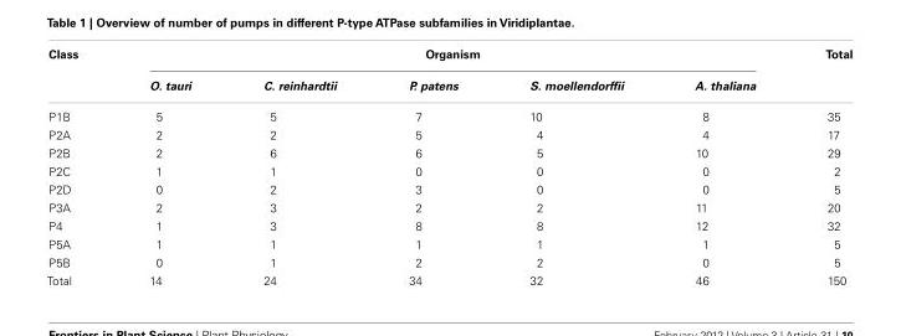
<table><thead><tr><td rowspan="2">Class</td><td colspan="5">Organism</td><td rowspan="2">Total</td></tr><tr><td>O. tauri</td><td>C. reinhardtii</td><td>P. patens</td><td>S. moellendorffii</td><td>A. thaliana</td></tr></thead><tbody><tr><td>P1B</td><td>5</td><td>5</td><td>7</td><td>10</td><td>8</td><td>35</td></tr><tr><td>P2A</td><td>2</td><td>2</td><td>5</td><td>4</td><td>4</td><td>17</td></tr><tr><td>P2B</td><td>2</td><td>6</td><td>6</td><td>5</td><td>10</td><td>29</td></tr><tr><td>P2C</td><td>1</td><td>1</td><td>0</td><td>0</td><td>0</td><td>2</td></tr><tr><td>P2D</td><td>0</td><td>2</td><td>3</td><td>0</td><td>0</td><td>5</td></tr><tr><td>P3A</td><td>2</td><td>3</td><td>2</td><td>2</td><td>11</td><td>20</td></tr><tr><td>P4</td><td>1</td><td>3</td><td>8</td><td>8</td><td>12</td><td>32</td></tr><tr><td>P5A</td><td>1</td><td>1</td><td>1</td><td>1</td><td>1</td><td>5</td></tr><tr><td>P5B</td><td>0</td><td>1</td><td>2</td><td>2</td><td>0</td><td>5</td></tr><tr><td>Total</td><td>14</td><td>24</td><td>34</td><td>32</td><td>46</td><td>150</td></tr></tbody></table>